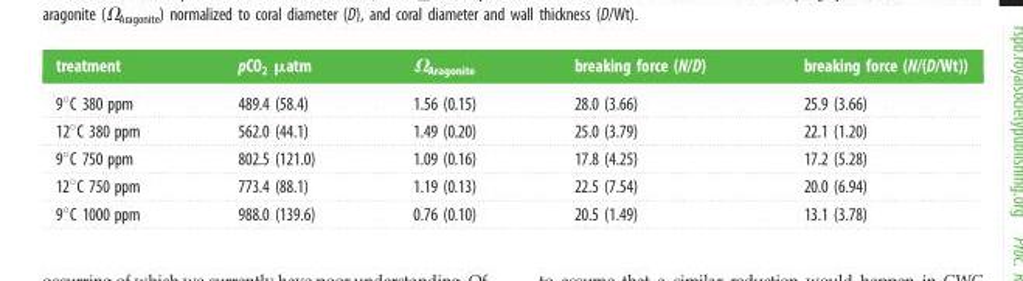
<table><thead><tr><td>treatment</td><td>pCO<sub>2</sub> µatm</td><td>Ω<sub>Aragonite</sub></td><td>breaking force (N/D)</td><td>breaking force (N/(D/Wt))</td></tr></thead><tbody><tr><td>9°C 380 ppm</td><td>489.4 (58.4)</td><td>1.56 (0.15)</td><td>28.0 (3.66)</td><td>25.9 (3.66)</td></tr><tr><td>12°C 380 ppm</td><td>562.0 (44.1)</td><td>1.49 (0.20)</td><td>25.0 (3.79)</td><td>22.1 (1.20)</td></tr><tr><td>9°C 750 ppm</td><td>802.5 (121.0)</td><td>1.09 (0.16)</td><td>17.8 (4.25)</td><td>17.2 (5.28)</td></tr><tr><td>12°C 750 ppm</td><td>773.4 (88.1)</td><td>1.19 (0.13)</td><td>22.5 (7.54)</td><td>20.0 (6.94)</td></tr><tr><td>9°C 1000 ppm</td><td>988.0 (139.6)</td><td>0.76 (0.10)</td><td>20.5 (1.49)</td><td>13.1 (3.78)</td></tr></tbody></table>